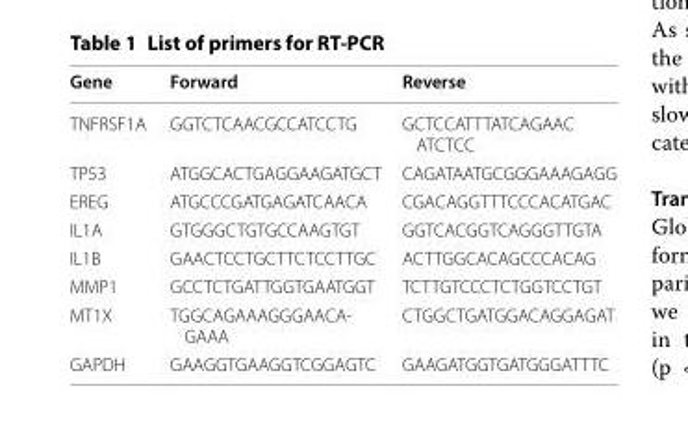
<table><thead><tr><td>Gene</td><td>Forward</td><td>Reverse</td></tr></thead><tbody><tr><td>TNFRSF1A</td><td>GGTCTCAACGCCATCCTG</td><td>GCTCCATTTATCAGAAC ATCTCC</td></tr><tr><td>TP53</td><td>ATGGCACTGAGGAAGATGCT</td><td>CAGATAATGCGGGAAAGAGG</td></tr><tr><td>EREG</td><td>ATGCCCGATGAGATCAACA</td><td>CGACAGGTTTCCCACATGAC</td></tr><tr><td>IL1A</td><td>GTGGGCTGTGCCAAGTGT</td><td>GGTCACGGTCAGGGTTGTA</td></tr><tr><td>IL1B</td><td>GAACTCCTGCTTCTCCTTGC</td><td>ACTTGGCACAGCCCACAG</td></tr><tr><td>MMP1</td><td>GCCTCTGATTGGTGAATGGT</td><td>TCTTGTCCCTCTGGTCCTGT</td></tr><tr><td>MT1X</td><td>TGGCAGAAAGGGAACA- GAAA</td><td>CTGGCTGATGGACAGGAGAT</td></tr><tr><td>GAPDH</td><td>GAAGGTGAAGGTCGGAGTC</td><td>GAAGATGGTGATGGGATTTC</td></tr></tbody></table>